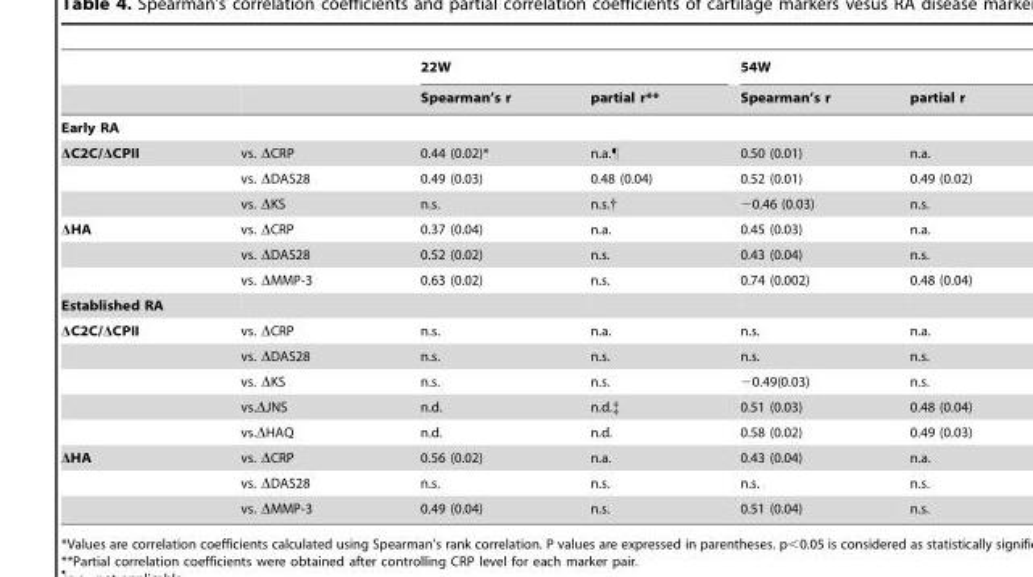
<table><thead><tr><td rowspan="2"></td><td rowspan="2"></td><td colspan="2">22W</td><td colspan="2">54W</td></tr><tr><td>Spearman’s r</td><td>partial r**</td><td>Spearman’s r</td><td>partial r</td></tr></thead><tbody><tr><td colspan="6">Early RA</td></tr><tr><td rowspan="3">ΔC2C/ΔCPII</td><td>vs. ΔCRP</td><td>0.44 (0.02)*</td><td>n.a.¶</td><td>0.50 (0.01)</td><td>n.a.</td></tr><tr><td>vs. ΔDAS28</td><td>0.49 (0.03)</td><td>0.48 (0.04)</td><td>0.52 (0.01)</td><td>0.49 (0.02)</td></tr><tr><td>vs. ΔKS</td><td>n.s.</td><td>n.s.†</td><td>−0.46 (0.03)</td><td>n.s.</td></tr><tr><td rowspan="3">ΔHA</td><td>vs. ΔCRP</td><td>0.37 (0.04)</td><td>n.a.</td><td>0.45 (0.03)</td><td>n.a.</td></tr><tr><td>vs. ΔDAS28</td><td>0.52 (0.02)</td><td>n.s.</td><td>0.43 (0.04)</td><td>n.s.</td></tr><tr><td>vs. ΔMMP-3</td><td>0.63 (0.02)</td><td>n.s.</td><td>0.74 (0.002)</td><td>0.48 (0.04)</td></tr><tr><td colspan="6">Established RA</td></tr><tr><td rowspan="5">ΔC2C/ΔCPII</td><td>vs. ΔCRP</td><td>n.s.</td><td>n.a.</td><td>n.s.</td><td>n.a.</td></tr><tr><td>vs. ΔDAS28</td><td>n.s.</td><td>n.s.</td><td>n.s.</td><td>n.s.</td></tr><tr><td>vs. ΔKS</td><td>n.s.</td><td>n.s.</td><td>−0.49(0.03)</td><td>n.s.</td></tr><tr><td>vs.ΔJNS</td><td>n.d.</td><td>n.d.‡</td><td>0.51 (0.03)</td><td>0.48 (0.04)</td></tr><tr><td>vs.ΔHAQ</td><td>n.d.</td><td>n.d.</td><td>0.58 (0.02)</td><td>0.49 (0.03)</td></tr><tr><td rowspan="3">ΔHA</td><td>vs. ΔCRP</td><td>0.56 (0.02)</td><td>n.a.</td><td>0.43 (0.04)</td><td>n.a.</td></tr><tr><td>vs. ΔDAS28</td><td>n.s.</td><td>n.s.</td><td>n.s.</td><td>n.s.</td></tr><tr><td>vs. ΔMMP-3</td><td>0.49 (0.04)</td><td>n.s.</td><td>0.51 (0.04)</td><td>n.s.</td></tr></tbody></table>